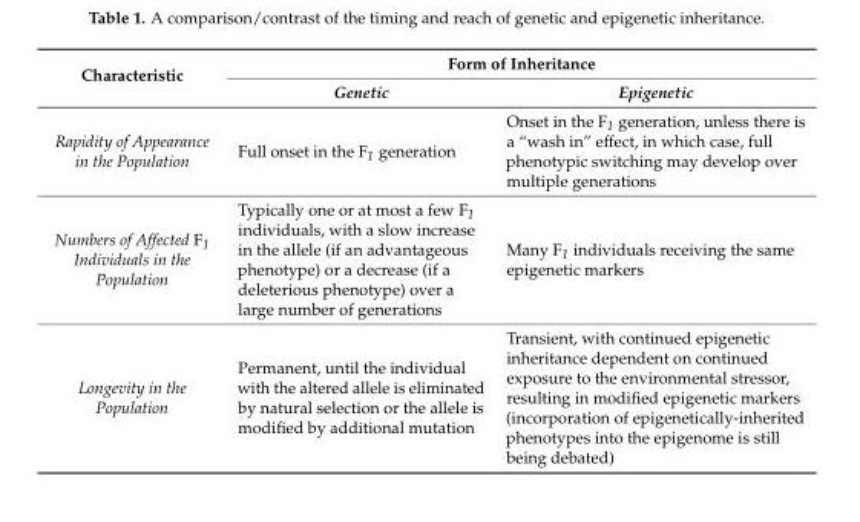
<table><thead><tr><td rowspan="2">Characteristic</td><td colspan="2">Form of Inheritance</td></tr><tr><td>Genetic</td><td>Epigenetic</td></tr></thead><tbody><tr><td>Rapidity of Appearance in the Population</td><td>Full onset in the F<sub>1</sub> generation</td><td>Onset in the F<sub>1</sub> generation, unless there is a “wash in” effect, in which case, full phenotypic switching may develop over multiple generations</td></tr><tr><td>Numbers of Affected F<sub>1</sub> Individuals in the Population</td><td>Typically one or at most a few F<sub>1</sub> individuals, with a slow increase in the allele (if an advantageous phenotype) or a decrease (if a deleterious phenotype) over a large number of generations</td><td>Many F<sub>1</sub> individuals receiving the same epigenetic markers</td></tr><tr><td>Longevity in the Population</td><td>Permanent, until the individual with the altered allele is eliminated by natural selection or the allele is modified by additional mutation</td><td>Transient, with continued epigenetic inheritance dependent on continued exposure to the environmental stressor, resulting in modified epigenetic markers (incorporation of epigenetically-inherited phenotypes into the epigenome is still being debated)</td></tr></tbody></table>